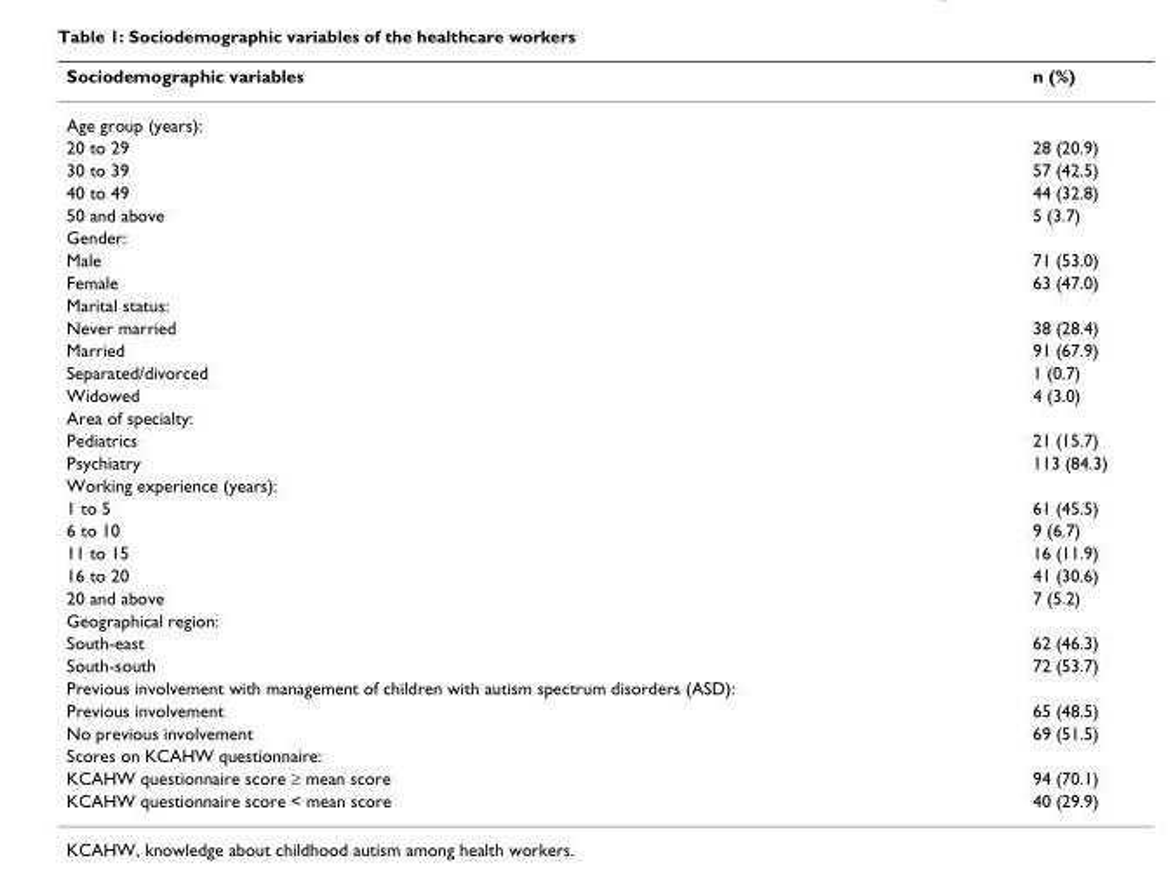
<table><thead><tr><td>Sociodemographic variables</td><td>n (%)</td></tr></thead><tbody><tr><td colspan="2">Age group (years):</td></tr><tr><td>20 to 29</td><td>28 (20.9)</td></tr><tr><td>30 to 39</td><td>57 (42.5)</td></tr><tr><td>40 to 49</td><td>44 (32.8)</td></tr><tr><td>50 and above</td><td>5 (3.7)</td></tr><tr><td colspan="2">Gender:</td></tr><tr><td>Male</td><td>71 (53.0)</td></tr><tr><td>Female</td><td>63 (47.0)</td></tr><tr><td colspan="2">Marital status:</td></tr><tr><td>Never married</td><td>38 (28.4)</td></tr><tr><td>Married</td><td>91 (67.9)</td></tr><tr><td>Separated/divorced</td><td>1 (0.7)</td></tr><tr><td>Widowed</td><td>4 (3.0)</td></tr><tr><td colspan="2">Area of specialty:</td></tr><tr><td>Pediatrics</td><td>21 (15.7)</td></tr><tr><td>Psychiatry</td><td>113 (84.3)</td></tr><tr><td colspan="2">Working experience (years):</td></tr><tr><td>1 to 5</td><td>61 (45.5)</td></tr><tr><td>6 to 10</td><td>9 (6.7)</td></tr><tr><td>11 to 15</td><td>16 (11.9)</td></tr><tr><td>16 to 20</td><td>41 (30.6)</td></tr><tr><td>20 and above</td><td>7 (5.2)</td></tr><tr><td colspan="2">Geographical region:</td></tr><tr><td>South-east</td><td>62 (46.3)</td></tr><tr><td>South-south</td><td>72 (53.7)</td></tr><tr><td colspan="2">Previous involvement with management of children with autism spectrum disorders (ASD):</td></tr><tr><td>Previous involvement</td><td>65 (48.5)</td></tr><tr><td>No previous involvement</td><td>69 (51.5)</td></tr><tr><td colspan="2">Scores on KCAHW questionnaire:</td></tr><tr><td>KCAHW questionnaire score ≥ mean score</td><td>94 (70.1)</td></tr><tr><td>KCAHW questionnaire score &lt; mean score</td><td>40 (29.9)</td></tr></tbody></table>